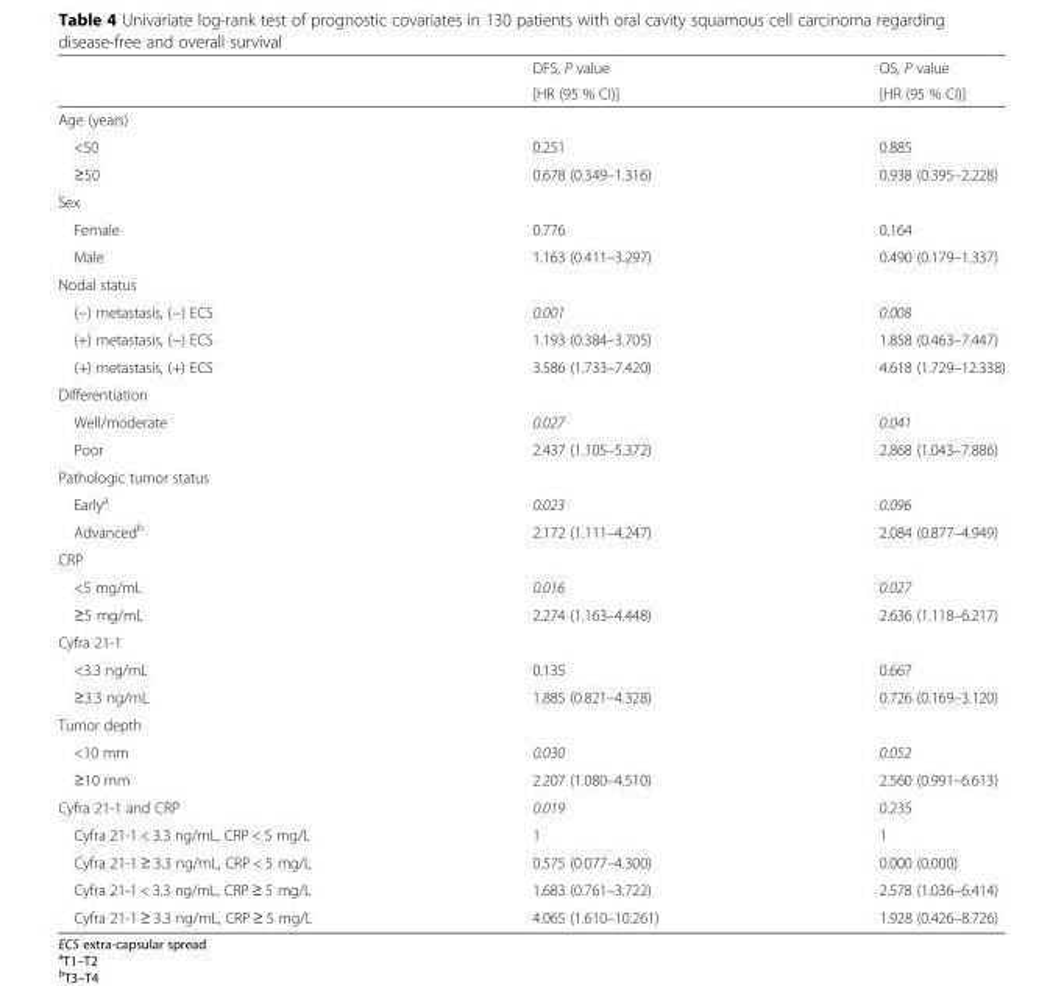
<table><thead><tr><td rowspan="2"></td><td rowspan="2">DFS, P value [HR (95 % CI)]</td><td rowspan="2">OS, P value [HR (95 % CI)]</td></tr><tr></tr></thead><tbody><tr><td colspan="3">Age (years)</td></tr><tr><td>&lt;50</td><td>0.251</td><td>0.885</td></tr><tr><td>≥50</td><td>0.678 (0.349–1.316)</td><td>0.938 (0.395–2.228)</td></tr><tr><td colspan="3">Sex</td></tr><tr><td>Female</td><td>0.776</td><td>0.164</td></tr><tr><td>Male</td><td>1.163 (0.411–3.297)</td><td>0.490 (0.179–1.337)</td></tr><tr><td colspan="3">Nodal status</td></tr><tr><td>(−) metastasis, (−) ECS</td><td>0.001</td><td>0.008</td></tr><tr><td>(+) metastasis, (−) ECS</td><td>1.193 (0.384–3.705)</td><td>1.858 (0.463–7.447)</td></tr><tr><td>(+) metastasis, (+) ECS</td><td>3.586 (1.733–7.420)</td><td>4.618 (1.729–12.338)</td></tr><tr><td colspan="3">Differentiation</td></tr><tr><td>Well/moderate</td><td>0.027</td><td>0.041</td></tr><tr><td>Poor</td><td>2.437 (1.105–5.372)</td><td>2.868 (1.043–7.886)</td></tr><tr><td colspan="3">Pathologic tumor status</td></tr><tr><td>Early<sup>a</sup></td><td>0.023</td><td>0.096</td></tr><tr><td>Advanced<sup>b</sup></td><td>2.172 (1.111–4.247)</td><td>2.084 (0.877–4.949)</td></tr><tr><td colspan="3">CRP</td></tr><tr><td>&lt;5 mg/mL</td><td>0.016</td><td>0.027</td></tr><tr><td>≥5 mg/mL</td><td>2.274 (1.163–4.448)</td><td>2.636 (1.118–6.217)</td></tr><tr><td colspan="3">Cyfra 21-1</td></tr><tr><td>&lt;3.3 ng/mL</td><td>0.135</td><td>0.667</td></tr><tr><td>≥3.3 ng/mL</td><td>1.885 (0.821–4.328)</td><td>0.726 (0.169–3.120)</td></tr><tr><td colspan="3">Tumor depth</td></tr><tr><td>&lt;10 mm</td><td>0.030</td><td>0.052</td></tr><tr><td>≥10 mm</td><td>2.207 (1.080–4.510)</td><td>2.560 (0.991–6.613)</td></tr><tr><td>Cyfra 21-1 and CRP</td><td>0.019</td><td>0.235</td></tr><tr><td>Cyfra 21-1 &lt; 3.3 ng/mL, CRP &lt; 5 mg/L</td><td>1</td><td>1</td></tr><tr><td>Cyfra 21-1 ≥ 3.3 ng/mL, CRP &lt; 5 mg/L</td><td>0.575 (0.077–4.300)</td><td>0.000 (0.000)</td></tr><tr><td>Cyfra 21-1 &lt; 3.3 ng/mL, CRP ≥ 5 mg/L</td><td>1.683 (0.761–3.722)</td><td>2.578 (1.036–6.414)</td></tr><tr><td>Cyfra 21-1 ≥ 3.3 ng/mL, CRP ≥ 5 mg/L</td><td>4.065 (1.610–10.261)</td><td>1.928 (0.426–8.726)</td></tr></tbody></table>